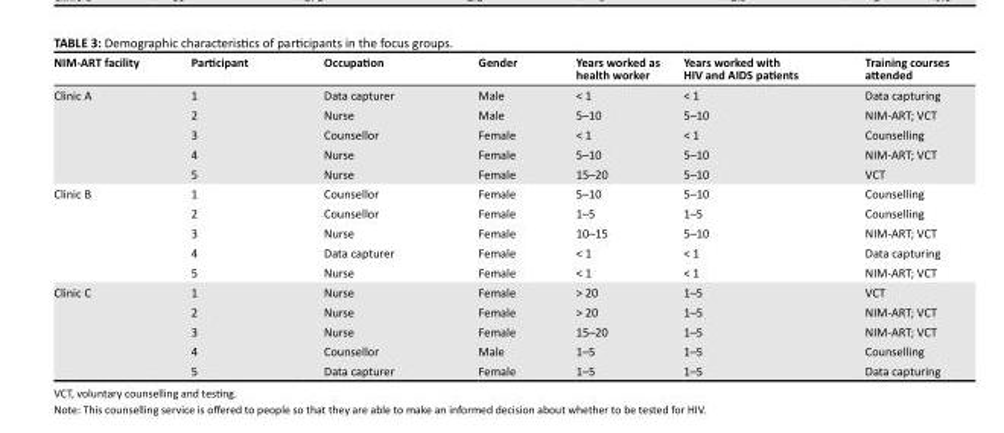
<table><thead><tr><td>NIM-ART facility</td><td>Participant</td><td>Occupation</td><td>Gender</td><td>Years worked as health worker</td><td>Years worked with HIV and AIDS patients</td><td>Training courses attended</td></tr></thead><tbody><tr><td rowspan="5">Clinic A</td><td>1</td><td>Data capturer</td><td>Male</td><td>&lt; 1</td><td>&lt; 1</td><td>Data capturing</td></tr><tr><td>2</td><td>Nurse</td><td>Male</td><td>5–10</td><td>5–10</td><td>NIM-ART; VCT</td></tr><tr><td>3</td><td>Counsellor</td><td>Female</td><td>&lt; 1</td><td>&lt; 1</td><td>Counselling</td></tr><tr><td>4</td><td>Nurse</td><td>Female</td><td>5–10</td><td>5–10</td><td>NIM-ART; VCT</td></tr><tr><td>5</td><td>Nurse</td><td>Female</td><td>15–20</td><td>5–10</td><td>VCT</td></tr><tr><td rowspan="5">Clinic B</td><td>1</td><td>Counsellor</td><td>Female</td><td>5–10</td><td>5–10</td><td>Counselling</td></tr><tr><td>2</td><td>Counsellor</td><td>Female</td><td>1–5</td><td>1–5</td><td>Counselling</td></tr><tr><td>3</td><td>Nurse</td><td>Female</td><td>10–15</td><td>5–10</td><td>NIM-ART; VCT</td></tr><tr><td>4</td><td>Data capturer</td><td>Female</td><td>&lt; 1</td><td>&lt; 1</td><td>Data capturing</td></tr><tr><td>5</td><td>Nurse</td><td>Female</td><td>&lt; 1</td><td>&lt; 1</td><td>NIM-ART; VCT</td></tr><tr><td rowspan="5">Clinic C</td><td>1</td><td>Nurse</td><td>Female</td><td>&gt; 20</td><td>1–5</td><td>VCT</td></tr><tr><td>2</td><td>Nurse</td><td>Female</td><td>&gt; 20</td><td>1–5</td><td>NIM-ART; VCT</td></tr><tr><td>3</td><td>Nurse</td><td>Female</td><td>15–20</td><td>1–5</td><td>NIM-ART; VCT</td></tr><tr><td>4</td><td>Counsellor</td><td>Male</td><td>1–5</td><td>1–5</td><td>Counselling</td></tr><tr><td>5</td><td>Data capturer</td><td>Female</td><td>1–5</td><td>1–5</td><td>Data capturing</td></tr></tbody></table>